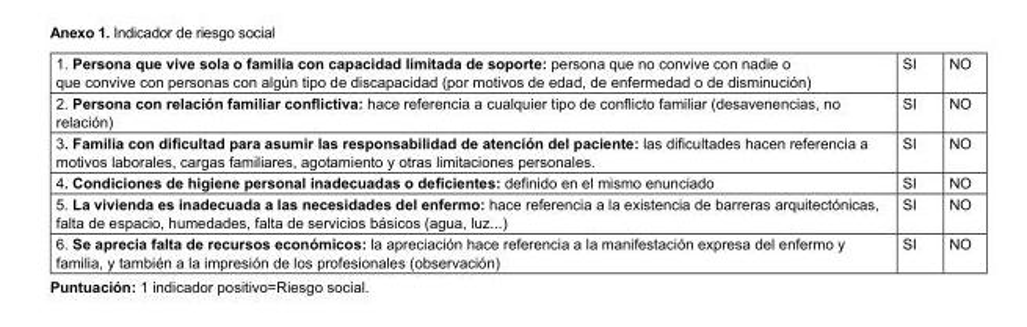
<table><tbody><tr><td>1. Persona que vive sola o familia con capacidad limitada de soporte: persona que no convive con nadie o que convive con personas con algún tipo de discapacidad (por motivos de edad, de enfermedad o de disminución)</td><td>SI</td><td>NO</td></tr><tr><td>2. Persona con relación familiar conflictiva: hace referencia a cualquier tipo de conflicto familiar (desavenencias, no relación)</td><td>SI</td><td>NO</td></tr><tr><td>3. Familia con dificultad para asumir las responsabilidad de atención del paciente: las dificultades hacen referencia a motivos laborales, cargas familiares, agotamiento y otras limitaciones personales.</td><td>SI</td><td>NO</td></tr><tr><td>4. Condiciones de higiene personal inadecuadas o deficientes: definido en el mismo enunciado</td><td>SI</td><td>NO</td></tr><tr><td>5. La vivienda es inadecuada a las necesidades del enfermo: hace referencia a la existencia de barreras arquitectónicas, falta de espacio, humedades, falta de servicios básicos (agua, luz...)</td><td>SI</td><td>NO</td></tr><tr><td>6. Se aprecia falta de recursos económicos: la apreciación hace referencia a la manifestación expresa del enfermo y familia, y también a la impresión de los profesionales (observación)</td><td>SI</td><td>NO</td></tr></tbody></table>